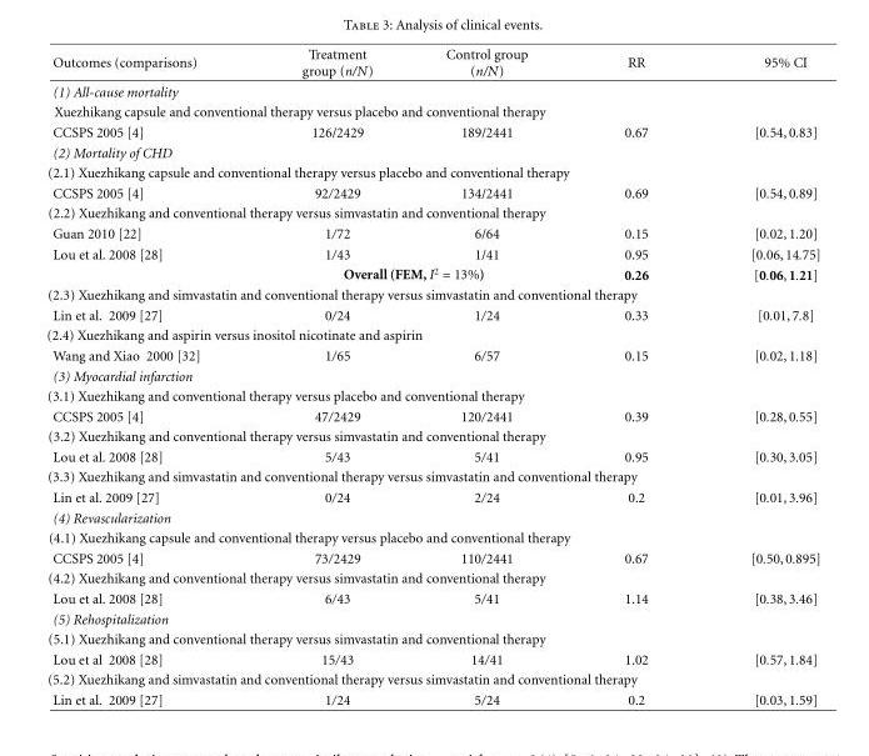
<table><thead><tr><td>Outcomes (comparisons)</td><td>Treatment group (n/N)</td><td>Control group (n/N)</td><td>RR</td><td>95% CI</td></tr></thead><tbody><tr><td colspan="5">(1) All-cause mortality</td></tr><tr><td colspan="5">Xuezhikang capsule and conventional therapy versus placebo and conventional therapy</td></tr><tr><td>CCSPS 2005 [4]</td><td>126/2429</td><td>189/2441</td><td>0.67</td><td>[0.54,0.83]</td></tr><tr><td colspan="5">(2) Mortality of CHD</td></tr><tr><td colspan="5">(2.1) Xuezhikang capsule and conventional therapy versus placebo and conventional therapy</td></tr><tr><td>CCSPS 2005 [4]</td><td>92/2429</td><td>134/2441</td><td>0.69</td><td>[0.54,0.89]</td></tr><tr><td colspan="5">(2.2) Xuezhikang and conventional therapy versus simvastatin and conventional therapy</td></tr><tr><td>Guan 2010 [22]</td><td>1/72</td><td>6/64</td><td>0.15</td><td>[0.02,1.20]</td></tr><tr><td rowspan="2">Lou et al. 2008 [28]</td><td>1/43</td><td>1/41</td><td>0.95</td><td>[0.06,14.75]</td></tr><tr><td colspan="2">Overall (FEM, I<sup>2</sup> = 13%)</td><td>0.26</td><td>[0.06,1.21]</td></tr><tr><td colspan="5">(2.3) Xuezhikang and simvastatin and conventional therapy versus simvastatin and conventional therapy</td></tr><tr><td>Lin et al. 2009 [27]</td><td>0/24</td><td>1/24</td><td>0.33</td><td>[0.01,7.8]</td></tr><tr><td colspan="5">(2.4) Xuezhikang and aspirin versus inositol nicotinate and aspirin</td></tr><tr><td>Wang and Xiao 2000 [32]</td><td>1/65</td><td>6/57</td><td>0.15</td><td>[0.02,1.18]</td></tr><tr><td colspan="5">(3) Myocardial infarction</td></tr><tr><td colspan="5">(3.1) Xuezhikang and conventional therapy versus placebo and conventional therapy</td></tr><tr><td>CCSPS 2005 [4]</td><td>47/2429</td><td>120/2441</td><td>0.39</td><td>[0.28,0.55]</td></tr><tr><td colspan="5">(3.2) Xuezhikang and conventional therapy versus simvastatin and conventional therapy</td></tr><tr><td>Lou et al. 2008 [28]</td><td>5/43</td><td>5/41</td><td>0.95</td><td>[0.30,3.05]</td></tr><tr><td colspan="5">(3.3) Xuezhikang and simvastatin and conventional therapy versus simvastatin and conventional therapy</td></tr><tr><td>Lin et al. 2009 [27]</td><td>0/24</td><td>2/24</td><td>0.2</td><td>[0.01,3.96]</td></tr><tr><td colspan="5">(4) Revascularization</td></tr><tr><td colspan="5">(4.1) Xuezhikang capsule and conventional therapy versus placebo and conventional therapy</td></tr><tr><td>CCSPS 2005 [4]</td><td>73/2429</td><td>110/2441</td><td>0.67</td><td>[0.50,0.895]</td></tr><tr><td colspan="5">(4.2) Xuezhikang and conventional therapy versus simvastatin and conventional therapy</td></tr><tr><td>Lou et al. 2008 [28]</td><td>6/43</td><td>5/41</td><td>1.14</td><td>[0.38,3.46]</td></tr><tr><td colspan="5">(5) Rehospitalization</td></tr><tr><td colspan="5">(5.1) Xuezhikang and conventional therapy versus simvastatin and conventional therapy</td></tr><tr><td>Lou et al 2008 [28]</td><td>15/43</td><td>14/41</td><td>1.02</td><td>[0.57,1.84]</td></tr><tr><td colspan="5">(5.2) Xuezhikang and simvastatin and conventional therapy versus simvastatin and conventional therapy</td></tr><tr><td>Lin et al. 2009 [27]</td><td>1/24</td><td>5/24</td><td>0.2</td><td>[0.03,1.59]</td></tr></tbody></table>